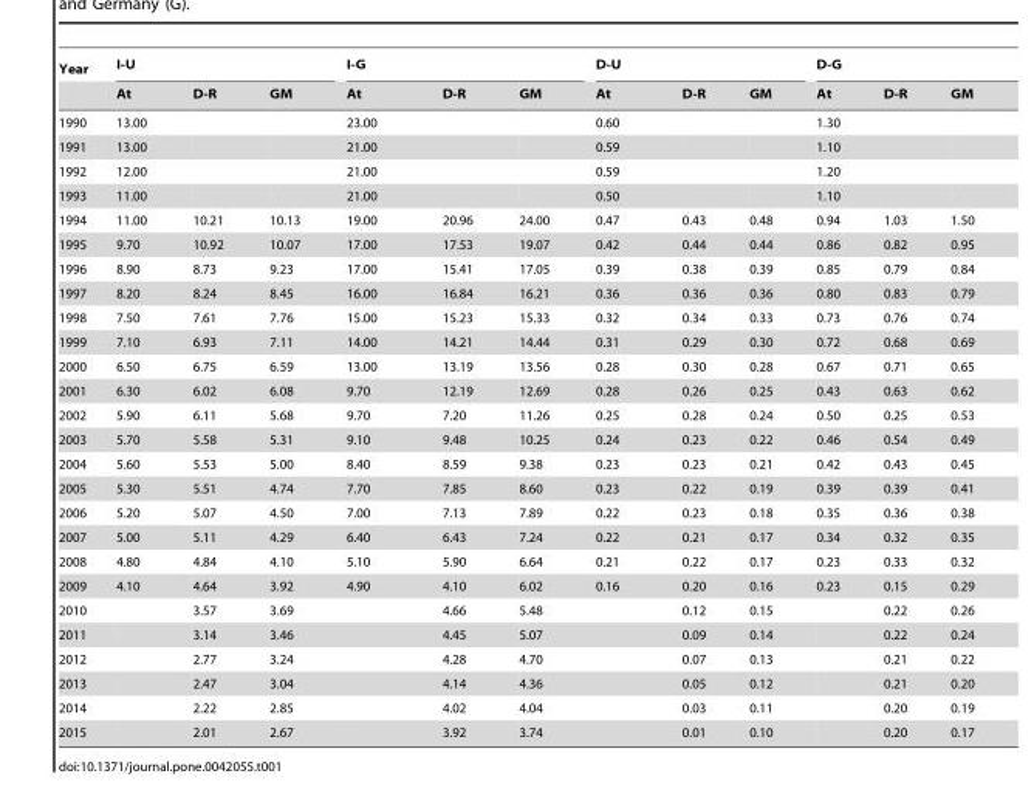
<table><thead><tr><td rowspan="2">Year</td><td colspan="3">I-U</td><td colspan="3">I-G</td><td colspan="3">D-U</td><td colspan="3">D-G</td></tr><tr><td>At</td><td>D-R</td><td>GM</td><td>At</td><td>D-R</td><td>GM</td><td>At</td><td>D-R</td><td>GM</td><td>At</td><td>D-R</td><td>GM</td></tr></thead><tbody><tr><td>1990</td><td>13.00</td><td></td><td></td><td>23.00</td><td></td><td></td><td>0.60</td><td></td><td></td><td>1.30</td><td></td><td></td></tr><tr><td>1991</td><td>13.00</td><td></td><td></td><td>21.00</td><td></td><td></td><td>0.59</td><td></td><td></td><td>1.10</td><td></td><td></td></tr><tr><td>1992</td><td>12.00</td><td></td><td></td><td>21.00</td><td></td><td></td><td>0.59</td><td></td><td></td><td>1.20</td><td></td><td></td></tr><tr><td>1993</td><td>11.00</td><td></td><td></td><td>21.00</td><td></td><td></td><td>0.50</td><td></td><td></td><td>1.10</td><td></td><td></td></tr><tr><td>1994</td><td>11.00</td><td>10.21</td><td>10.13</td><td>19.00</td><td>20.96</td><td>24.00</td><td>0.47</td><td>0.43</td><td>0.48</td><td>0.94</td><td>1.03</td><td>1.50</td></tr><tr><td>1995</td><td>9.70</td><td>10.92</td><td>10.07</td><td>17.00</td><td>17.53</td><td>19.07</td><td>0.42</td><td>0.44</td><td>0.44</td><td>0.86</td><td>0.82</td><td>0.95</td></tr><tr><td>1996</td><td>8.90</td><td>8.73</td><td>9.23</td><td>17.00</td><td>15.41</td><td>17.05</td><td>0.39</td><td>0.38</td><td>0.39</td><td>0.85</td><td>0.79</td><td>0.84</td></tr><tr><td>1997</td><td>8.20</td><td>8.24</td><td>8.45</td><td>16.00</td><td>16.84</td><td>16.21</td><td>0.36</td><td>0.36</td><td>0.36</td><td>0.80</td><td>0.83</td><td>0.79</td></tr><tr><td>1998</td><td>7.50</td><td>7.61</td><td>7.76</td><td>15.00</td><td>15.23</td><td>15.33</td><td>0.32</td><td>0.34</td><td>0.33</td><td>0.73</td><td>0.76</td><td>0.74</td></tr><tr><td>1999</td><td>7.10</td><td>6.93</td><td>7.11</td><td>14.00</td><td>14.21</td><td>14.44</td><td>0.31</td><td>0.29</td><td>0.30</td><td>0.72</td><td>0.68</td><td>0.69</td></tr><tr><td>2000</td><td>6.50</td><td>6.75</td><td>6.59</td><td>13.00</td><td>13.19</td><td>13.56</td><td>0.28</td><td>0.30</td><td>0.28</td><td>0.67</td><td>0.71</td><td>0.65</td></tr><tr><td>2001</td><td>6.30</td><td>6.02</td><td>6.08</td><td>9.70</td><td>12.19</td><td>12.69</td><td>0.28</td><td>0.26</td><td>0.25</td><td>0.43</td><td>0.63</td><td>0.62</td></tr><tr><td>2002</td><td>5.90</td><td>6.11</td><td>5.68</td><td>9.70</td><td>7.20</td><td>11.26</td><td>0.25</td><td>0.28</td><td>0.24</td><td>0.50</td><td>0.25</td><td>0.53</td></tr><tr><td>2003</td><td>5.70</td><td>5.58</td><td>5.31</td><td>9.10</td><td>9.48</td><td>10.25</td><td>0.24</td><td>0.23</td><td>0.22</td><td>0.46</td><td>0.54</td><td>0.49</td></tr><tr><td>2004</td><td>5.60</td><td>5.53</td><td>5.00</td><td>8.40</td><td>8.59</td><td>9.38</td><td>0.23</td><td>0.23</td><td>0.21</td><td>0.42</td><td>0.43</td><td>0.45</td></tr><tr><td>2005</td><td>5.30</td><td>5.51</td><td>4.74</td><td>7.70</td><td>7.85</td><td>8.60</td><td>0.23</td><td>0.22</td><td>0.19</td><td>0.39</td><td>0.39</td><td>0.41</td></tr><tr><td>2006</td><td>5.20</td><td>5.07</td><td>4.50</td><td>7.00</td><td>7.13</td><td>7.89</td><td>0.22</td><td>0.23</td><td>0.18</td><td>0.35</td><td>0.36</td><td>0.38</td></tr><tr><td>2007</td><td>5.00</td><td>5.11</td><td>4.29</td><td>6.40</td><td>6.43</td><td>7.24</td><td>0.22</td><td>0.21</td><td>0.17</td><td>0.34</td><td>0.32</td><td>0.35</td></tr><tr><td>2008</td><td>4.80</td><td>4.84</td><td>4.10</td><td>5.10</td><td>5.90</td><td>6.64</td><td>0.21</td><td>0.22</td><td>0.17</td><td>0.23</td><td>0.33</td><td>0.32</td></tr><tr><td>2009</td><td>4.10</td><td>4.64</td><td>3.92</td><td>4.90</td><td>4.10</td><td>6.02</td><td>0.16</td><td>0.20</td><td>0.16</td><td>0.23</td><td>0.15</td><td>0.29</td></tr><tr><td>2010</td><td></td><td>3.57</td><td>3.69</td><td></td><td>4.66</td><td>5.48</td><td></td><td>0.12</td><td>0.15</td><td></td><td>0.22</td><td>0.26</td></tr><tr><td>2011</td><td></td><td>3.14</td><td>3.46</td><td></td><td>4.45</td><td>5.07</td><td></td><td>0.09</td><td>0.14</td><td></td><td>0.22</td><td>0.24</td></tr><tr><td>2012</td><td></td><td>2.77</td><td>3.24</td><td></td><td>4.28</td><td>4.70</td><td></td><td>0.07</td><td>0.13</td><td></td><td>0.21</td><td>0.22</td></tr><tr><td>2013</td><td></td><td>2.47</td><td>3.04</td><td></td><td>4.14</td><td>4.36</td><td></td><td>0.05</td><td>0.12</td><td></td><td>0.21</td><td>0.20</td></tr><tr><td>2014</td><td></td><td>2.22</td><td>2.85</td><td></td><td>4.02</td><td>4.04</td><td></td><td>0.03</td><td>0.11</td><td></td><td>0.20</td><td>0.19</td></tr><tr><td>2015</td><td></td><td>2.01</td><td>2.67</td><td></td><td>3.92</td><td>3.74</td><td></td><td>0.01</td><td>0.10</td><td></td><td>0.20</td><td>0.17</td></tr></tbody></table>